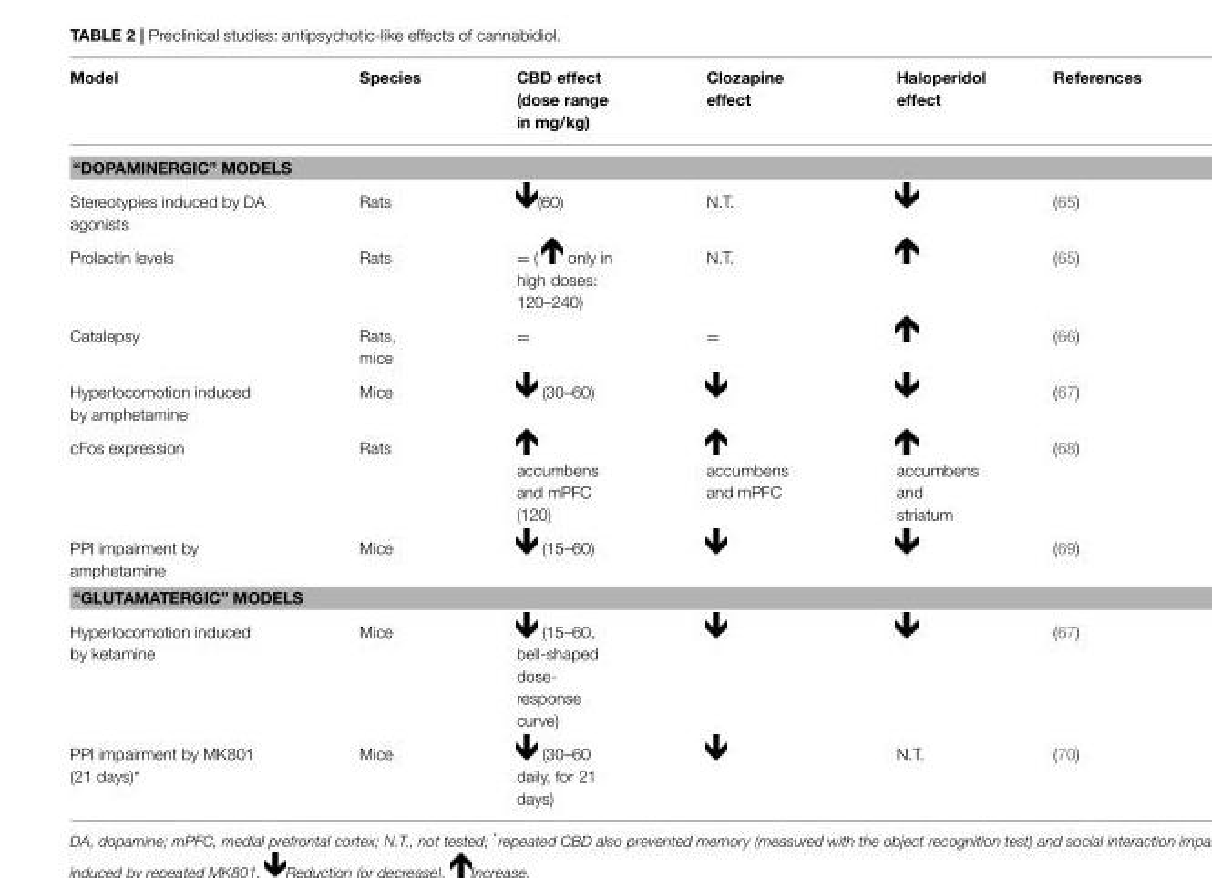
<table><thead><tr><td>Model</td><td>Species</td><td>CBD effect (dose range in mg/kg)</td><td>Clozapine effect</td><td>Haloperidol effect</td><td>References</td></tr></thead><tbody><tr><td colspan="6">“DOPAMINERGIC” MODELS</td></tr><tr><td>Stereotypies induced by DA agonists</td><td>Rats</td><td>(60)</td><td>N.T.</td><td></td><td>(65)</td></tr><tr><td>Prolactin levels</td><td>Rats</td><td>= ( only in high doses: 120–240)</td><td>N.T.</td><td></td><td>(65)</td></tr><tr><td>Catalepsy</td><td>Rats, mice</td><td>=</td><td>=</td><td></td><td>(66)</td></tr><tr><td>Hyperlocomotion induced by amphetamine</td><td>Mice</td><td>(30–60)</td><td></td><td></td><td>(67)</td></tr><tr><td>cFos expression</td><td>Rats</td><td>accumbens and mPFC (120)</td><td>accumbens and mPFC</td><td>accumbens and striatum</td><td>(68)</td></tr><tr><td>PPI impairment by amphetamine</td><td>Mice</td><td>(15–60)</td><td></td><td></td><td>(69)</td></tr><tr><td colspan="6">“GLUTAMATERGIC” MODELS</td></tr><tr><td>Hyperlocomotion induced by ketamine</td><td>Mice</td><td>(15–60, bell-shaped dose- response curve)</td><td></td><td></td><td>(67)</td></tr><tr><td>PPI impairment by MK801 (21 days)*</td><td>Mice</td><td>(30–60 daily, for 21 days)</td><td></td><td>N.T.</td><td>(70)</td></tr></tbody></table>